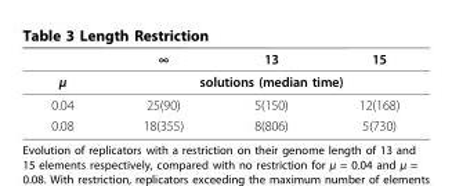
<table><thead><tr><td></td><td>∞</td><td>13</td><td>15</td></tr></thead><tbody><tr><td>μ</td><td colspan="3">solutions (median time)</td></tr><tr><td>0.04</td><td>25(90)</td><td>5(150)</td><td>12(168)</td></tr><tr><td>0.08</td><td>18(355)</td><td>8(806)</td><td>5(730)</td></tr></tbody></table>